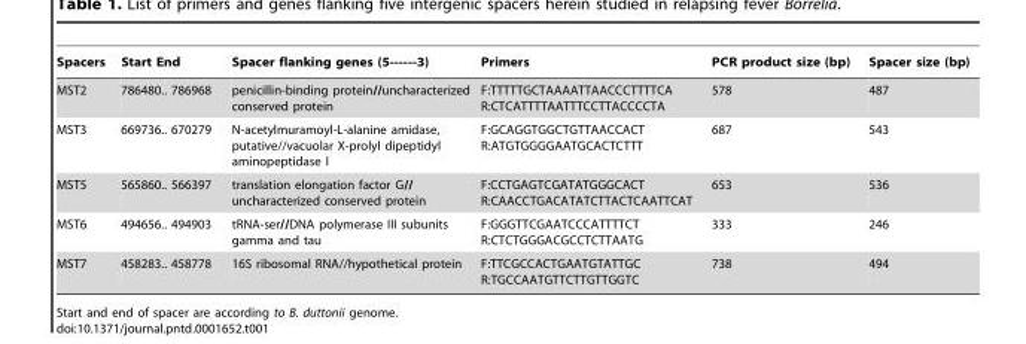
<table><thead><tr><td>Spacers</td><td>Start End</td><td>Spacer flanking genes (5------3)</td><td>Primers</td><td>PCR product size (bp)</td><td>Spacer size (bp)</td></tr></thead><tbody><tr><td>MST2</td><td>786480.. 786968</td><td>penicillin-binding protein//uncharacterized conserved protein</td><td>F:TTTTTGCTAAAATTAACCCTTTTCA R:CTCATTTTAATTTCCTTACCCCTA</td><td>578</td><td>487</td></tr><tr><td>MST3</td><td>669736.. 670279</td><td>N-acetylmuramoyl-L-alanine amidase, putative//vacuolar X-prolyl dipeptidyl aminopeptidase I</td><td>F:GCAGGTGGCTGTTAACCACT R:ATGTGGGGAATGCACTCTTT</td><td>687</td><td>543</td></tr><tr><td>MST5</td><td>565860.. 566397</td><td>translation elongation factor G// uncharacterized conserved protein</td><td>F:CCTGAGTCGATATGGGCACT R:CAACCTGACATATCTTACTCAATTCAT</td><td>653</td><td>536</td></tr><tr><td>MST6</td><td>494656.. 494903</td><td>tRNA-ser//DNA polymerase III subunits gamma and tau</td><td>F:GGGTTCGAATCCCATTTTCT R:CTCTGGGACGCCTCTTAATG</td><td>333</td><td>246</td></tr><tr><td>MST7</td><td>458283.. 458778</td><td>16S ribosomal RNA//hypothetical protein</td><td>F:TTCGCCACTGAATGTATTGC R:TGCCAATGTTCTTGTTGGTC</td><td>738</td><td>494</td></tr></tbody></table>